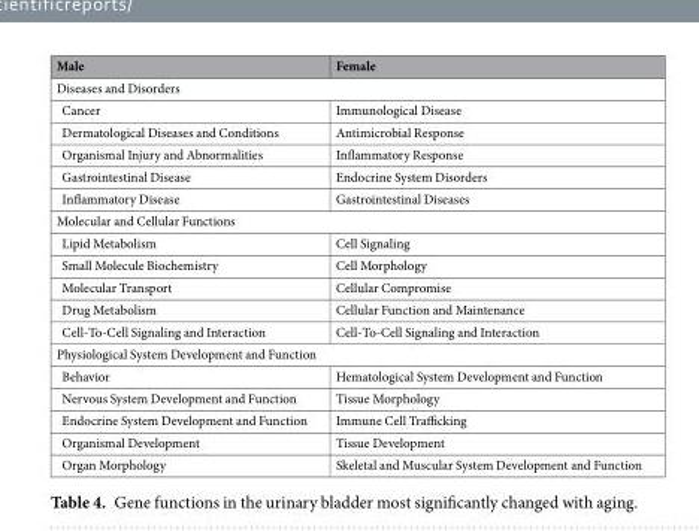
<table><thead><tr><td>Male</td><td>Female</td></tr></thead><tbody><tr><td colspan="2">Diseases and Disorders</td></tr><tr><td>Cancer</td><td>Immunological Disease</td></tr><tr><td>Dermatological Diseases and Conditions</td><td>Antimicrobial Response</td></tr><tr><td>Organismal Injury and Abnormalities</td><td>Inflammatory Response</td></tr><tr><td>Gastrointestinal Disease</td><td>Endocrine System Disorders</td></tr><tr><td>Inflammatory Disease</td><td>Gastrointestinal Diseases</td></tr><tr><td colspan="2">Molecular and Cellular Functions</td></tr><tr><td>Lipid Metabolism</td><td>Cell Signaling</td></tr><tr><td>Small Molecule Biochemistry</td><td>Cell Morphology</td></tr><tr><td>Molecular Transport</td><td>Cellular Compromise</td></tr><tr><td>Drug Metabolism</td><td>Cellular Function and Maintenance</td></tr><tr><td>Cell-To-Cell Signaling and Interaction</td><td>Cell-To-Cell Signaling and Interaction</td></tr><tr><td colspan="2">Physiological System Development and Function</td></tr><tr><td>Behavior</td><td>Hematological System Development and Function</td></tr><tr><td>Nervous System Development and Function</td><td>Tissue Morphology</td></tr><tr><td>Endocrine System Development and Function</td><td>Immune Cell Trafficking</td></tr><tr><td>Organismal Development</td><td>Tissue Development</td></tr><tr><td>Organ Morphology</td><td>Skeletal and Muscular System Development and Function</td></tr></tbody></table>